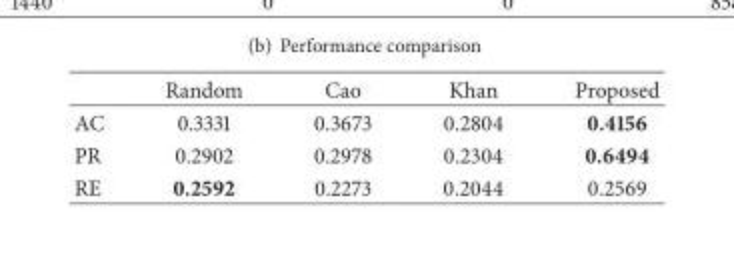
<table><thead><tr><td></td><td>Random</td><td>Cao</td><td>Khan</td><td>Proposed</td></tr></thead><tbody><tr><td>AC</td><td>0.3331</td><td>0.3673</td><td>0.2804</td><td>0.4156</td></tr><tr><td>PR</td><td>0.2902</td><td>0.2978</td><td>0.2304</td><td>0.6494</td></tr><tr><td>RE</td><td>0.2592</td><td>0.2273</td><td>0.2044</td><td>0.2569</td></tr></tbody></table>